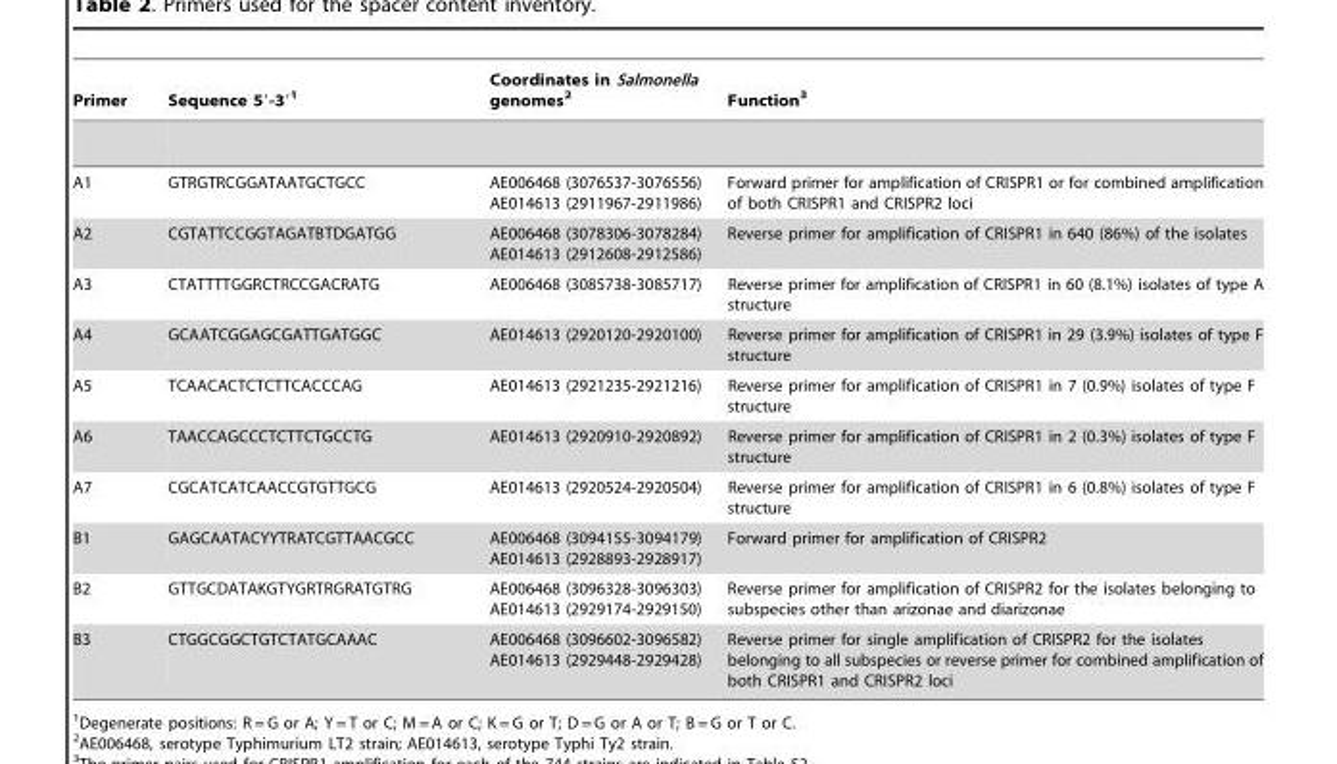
<table><thead><tr><td>Primer</td><td>Sequence 5′-3′<sup>1</sup></td><td>Coordinates in Salmonella genomes<sup>2</sup></td><td>Function<sup>3</sup></td></tr></thead><tbody><tr><td>A1</td><td>GTRGTRCGGATAATGCTGCC</td><td>AE006468 (3076537-3076556) AE014613 (2911967-2911986)</td><td>Forward primer for amplification of CRISPR1 or for combined amplification of both CRISPR1 and CRISPR2 loci</td></tr><tr><td>A2</td><td>CGTATTCCGGTAGATBTDGATGG</td><td>AE006468 (3078306-3078284) AE014613 (2912608-2912586)</td><td>Reverse primer for amplification of CRISPR1 in 640 (86%) of the isolates</td></tr><tr><td>A3</td><td>CTATTTTGGRCTRCCGACRATG</td><td>AE006468 (3085738-3085717)</td><td>Reverse primer for amplification of CRISPR1 in 60 (8.1%) isolates of type A structure</td></tr><tr><td>A4</td><td>GCAATCGGAGCGATTGATGGC</td><td>AE014613 (2920120-2920100)</td><td>Reverse primer for amplification of CRISPR1 in 29 (3.9%) isolates of type F structure</td></tr><tr><td>A5</td><td>TCAACACTCTCTTCACCCAG</td><td>AE014613 (2921235-2921216)</td><td>Reverse primer for amplification of CRISPR1 in 7 (0.9%) isolates of type F structure</td></tr><tr><td>A6</td><td>TAACCAGCCCTCTTCTGCCTG</td><td>AE014613 (2920910-2920892)</td><td>Reverse primer for amplification of CRISPR1 in 2 (0.3%) isolates of type F structure</td></tr><tr><td>A7</td><td>CGCATCATCAACCGTGTTGCG</td><td>AE014613 (2920524-2920504)</td><td>Reverse primer for amplification of CRISPR1 in 6 (0.8%) isolates of type F structure</td></tr><tr><td>B1</td><td>GAGCAATACYYTRATCGTTAACGCC</td><td>AE006468 (3094155-3094179) AE014613 (2928893-2928917)</td><td>Forward primer for amplification of CRISPR2</td></tr><tr><td>B2</td><td>GTTGCDATAKGTYGRTRGRATGTRG</td><td>AE006468 (3096328-3096303) AE014613 (2929174-2929150)</td><td>Reverse primer for amplification of CRISPR2 for the isolates belonging to subspecies other than arizonae and diarizonae</td></tr><tr><td>B3</td><td>CTGGCGGCTGTCTATGCAAAC</td><td>AE006468 (3096602-3096582) AE014613 (2929448-2929428)</td><td>Reverse primer for single amplification of CRISPR2 for the isolates belonging to all subspecies or reverse primer for combined amplification of both CRISPR1 and CRISPR2 loci</td></tr></tbody></table>